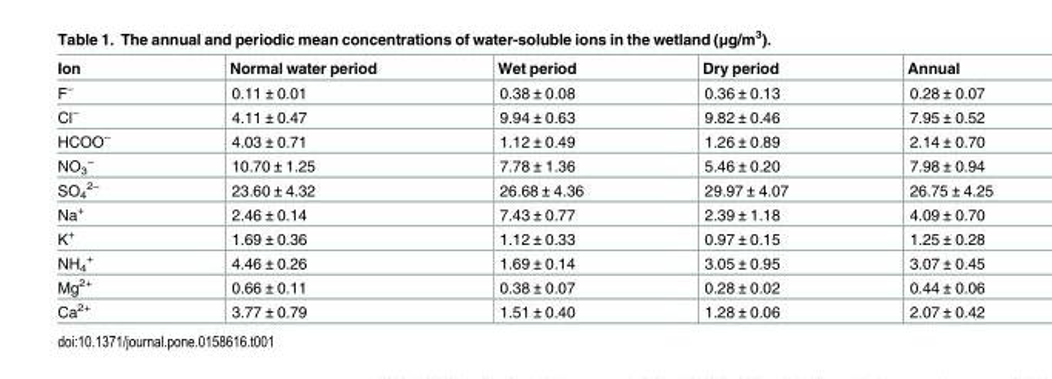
<table><thead><tr><td>Ion</td><td>Normal water period</td><td>Wet period</td><td>Dry period</td><td>Annual</td></tr></thead><tbody><tr><td>F<sup>−</sup></td><td>0.11 ± 0.01</td><td>0.38 ± 0.08</td><td>0.36 ± 0.13</td><td>0.28 ± 0.07</td></tr><tr><td>Cl<sup>−</sup></td><td>4.11 ± 0.47</td><td>9.94 ± 0.63</td><td>9.82 ± 0.46</td><td>7.95 ± 0.52</td></tr><tr><td>HCOO<sup>−</sup></td><td>4.03 ± 0.71</td><td>1.12 ± 0.49</td><td>1.26 ± 0.89</td><td>2.14 ± 0.70</td></tr><tr><td>NO<sub>3</sub> <sup>−</sup></td><td>10.70 ± 1.25</td><td>7.78 ± 1.36</td><td>5.46 ± 0.20</td><td>7.98 ± 0.94</td></tr><tr><td>SO<sub>4</sub> <sup>2−</sup></td><td>23.60 ± 4.32</td><td>26.68 ± 4.36</td><td>29.97 ± 4.07</td><td>26.75 ± 4.25</td></tr><tr><td>Na<sup>+</sup></td><td>2.46 ± 0.14</td><td>7.43 ± 0.77</td><td>2.39 ± 1.18</td><td>4.09 ± 0.70</td></tr><tr><td>K<sup>+</sup></td><td>1.69 ± 0.36</td><td>1.12 ± 0.33</td><td>0.97 ± 0.15</td><td>1.25 ± 0.28</td></tr><tr><td>NH<sub>4</sub> <sup>+</sup></td><td>4.46 ± 0.26</td><td>1.69 ± 0.14</td><td>3.05 ± 0.95</td><td>3.07 ± 0.45</td></tr><tr><td>Mg<sup>2+</sup></td><td>0.66 ± 0.11</td><td>0.38 ± 0.07</td><td>0.28 ± 0.02</td><td>0.44 ± 0.06</td></tr><tr><td>Ca<sup>2+</sup></td><td>3.77 ± 0.79</td><td>1.51 ± 0.40</td><td>1.28 ± 0.06</td><td>2.07 ± 0.42</td></tr></tbody></table>